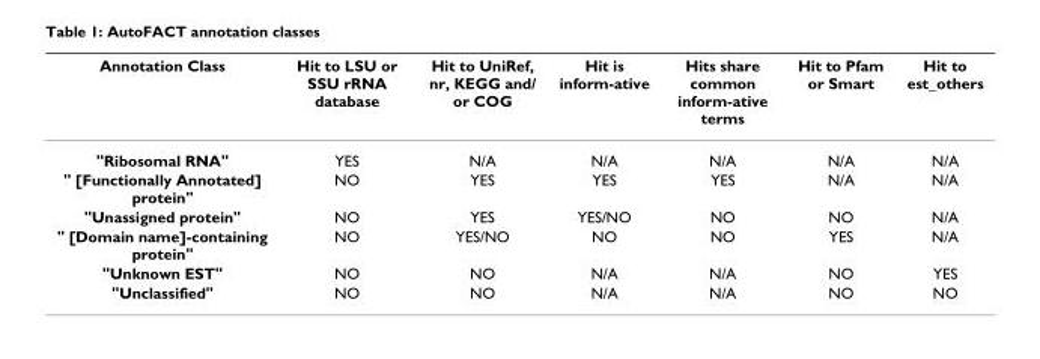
<table><thead><tr><td>Annotation Class</td><td>Hit to LSU or SSU rRNA database</td><td>Hit to UniRef, nr, KEGG and/ or COG</td><td>Hit is inform-ative</td><td>Hits share common inform-ative terms</td><td>Hit to Pfam or Smart</td><td>Hit to est_others</td></tr></thead><tbody><tr><td>&quot;Ribosomal RNA&quot;</td><td>YES</td><td>N/A</td><td>N/A</td><td>N/A</td><td>N/A</td><td>N/A</td></tr><tr><td>&quot; [Functionally Annotated] protein&quot;</td><td>NO</td><td>YES</td><td>YES</td><td>YES</td><td>N/A</td><td>N/A</td></tr><tr><td>&quot;Unassigned protein&quot;</td><td>NO</td><td>YES</td><td>YES/NO</td><td>NO</td><td>NO</td><td>N/A</td></tr><tr><td>&quot; [Domain name]-containing protein&quot;</td><td>NO</td><td>YES/NO</td><td>NO</td><td>NO</td><td>YES</td><td>N/A</td></tr><tr><td>&quot;Unknown EST&quot;</td><td>NO</td><td>NO</td><td>N/A</td><td>N/A</td><td>NO</td><td>YES</td></tr><tr><td>&quot;Unclassified&quot;</td><td>NO</td><td>NO</td><td>N/A</td><td>N/A</td><td>NO</td><td>NO</td></tr></tbody></table>